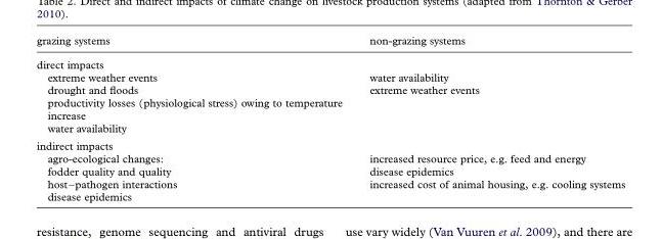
<table><thead><tr><td>grazing systems</td><td>non-grazing systems</td></tr></thead><tbody><tr><td colspan="2">direct impacts</td></tr><tr><td>extreme weather events</td><td>water availability</td></tr><tr><td>drought and floods</td><td>extreme weather events</td></tr><tr><td colspan="2">productivity losses (physiological stress) owing to temperature increase</td></tr><tr><td colspan="2">water availability</td></tr><tr><td colspan="2">indirect impacts</td></tr><tr><td>agro-ecological changes:</td><td>increased resource price, e.g. feed and energy</td></tr><tr><td>fodder quality and quality</td><td>disease epidemics</td></tr><tr><td>host–pathogen interactions</td><td>increased cost of animal housing, e.g. cooling systems</td></tr><tr><td>disease epidemics</td><td></td></tr></tbody></table>